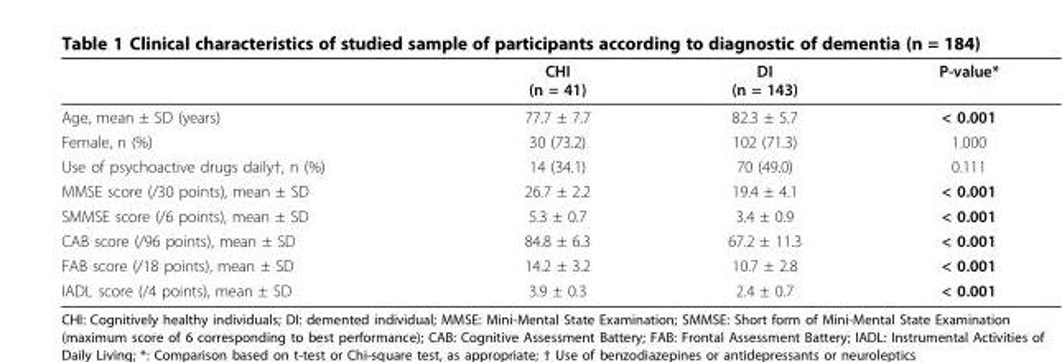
<table><thead><tr><td></td><td>CHI (n = 41)</td><td>DI (n = 143)</td><td>P-value*</td></tr></thead><tbody><tr><td>Age, mean ± SD (years)</td><td>77.7 ± 7.7</td><td>82.3 ± 5.7</td><td>&lt; 0.001</td></tr><tr><td>Female, n (%)</td><td>30 (73.2)</td><td>102 (71.3)</td><td>1.000</td></tr><tr><td>Use of psychoactive drugs daily†, n (%)</td><td>14 (34.1)</td><td>70 (49.0)</td><td>0.111</td></tr><tr><td>MMSE score (/30 points), mean ± SD</td><td>26.7 ± 2.2</td><td>19.4 ± 4.1</td><td>&lt; 0.001</td></tr><tr><td>SMMSE score (/6 points), mean ± SD</td><td>5.3 ± 0.7</td><td>3.4 ± 0.9</td><td>&lt; 0.001</td></tr><tr><td>CAB score (/96 points), mean ± SD</td><td>84.8 ± 6.3</td><td>67.2 ± 11.3</td><td>&lt; 0.001</td></tr><tr><td>FAB score (/18 points), mean ± SD</td><td>14.2 ± 3.2</td><td>10.7 ± 2.8</td><td>&lt; 0.001</td></tr><tr><td>IADL score (/4 points), mean ± SD</td><td>3.9 ± 0.3</td><td>2.4 ± 0.7</td><td>&lt; 0.001</td></tr></tbody></table>